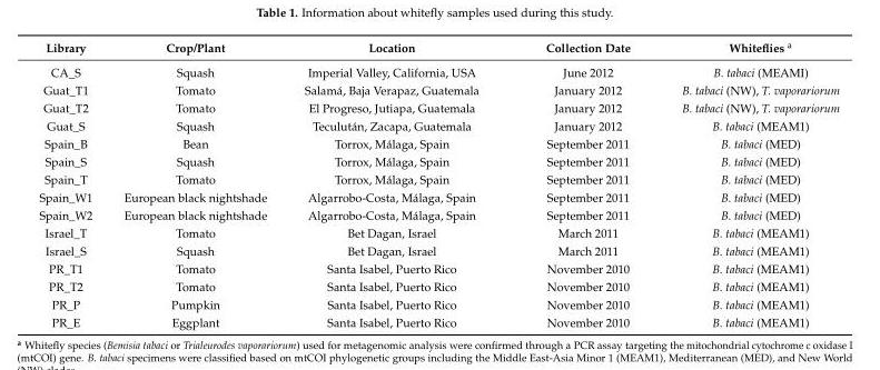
<table><thead><tr><td>Library</td><td>Crop/Plant</td><td>Location</td><td>Collection Date</td><td>Whiteflies <sup>a</sup></td></tr></thead><tbody><tr><td>CA_S</td><td>Squash</td><td>Imperial Valley, California, USA</td><td>June 2012</td><td>B. tabaci (MEAMI)</td></tr><tr><td>Guat_T1</td><td>Tomato</td><td>Salamá, Baja Verapaz, Guatemala</td><td>January 2012</td><td>B. tabaci (NW), T. vaporariorum</td></tr><tr><td>Guat_T2</td><td>Tomato</td><td>El Progreso, Jutiapa, Guatemala</td><td>January 2012</td><td>B. tabaci (NW), T. vaporariorum</td></tr><tr><td>Guat_S</td><td>Squash</td><td>Teculután, Zacapa, Guatemala</td><td>January 2012</td><td>B. tabaci (MEAM1)</td></tr><tr><td>Spain_B</td><td>Bean</td><td>Torrox, Málaga, Spain</td><td>September 2011</td><td>B. tabaci (MED)</td></tr><tr><td>Spain_S</td><td>Squash</td><td>Torrox, Málaga, Spain</td><td>September 2011</td><td>B. tabaci (MED)</td></tr><tr><td>Spain_T</td><td>Tomato</td><td>Torrox, Málaga, Spain</td><td>September 2011</td><td>B. tabaci (MED)</td></tr><tr><td>Spain_W1</td><td>European black nightshade</td><td>Algarrobo-Costa, Málaga, Spain</td><td>September 2011</td><td>B. tabaci (MED)</td></tr><tr><td>Spain_W2</td><td>European black nightshade</td><td>Algarrobo-Costa, Málaga, Spain</td><td>September 2011</td><td>B. tabaci (MED)</td></tr><tr><td>Israel_T</td><td>Tomato</td><td>Bet Dagan, Israel</td><td>March 2011</td><td>B. tabaci (MEAM1)</td></tr><tr><td>Israel_S</td><td>Squash</td><td>Bet Dagan, Israel</td><td>March 2011</td><td>B. tabaci (MEAM1)</td></tr><tr><td>PR_T1</td><td>Tomato</td><td>Santa Isabel, Puerto Rico</td><td>November 2010</td><td>B. tabaci (MEAM1)</td></tr><tr><td>PR_T2</td><td>Tomato</td><td>Santa Isabel, Puerto Rico</td><td>November 2010</td><td>B. tabaci (MEAM1)</td></tr><tr><td>PR_P</td><td>Pumpkin</td><td>Santa Isabel, Puerto Rico</td><td>November 2010</td><td>B. tabaci (MEAM1)</td></tr><tr><td>PR_E</td><td>Eggplant</td><td>Santa Isabel, Puerto Rico</td><td>November 2010</td><td>B. tabaci (MEAM1)</td></tr></tbody></table>